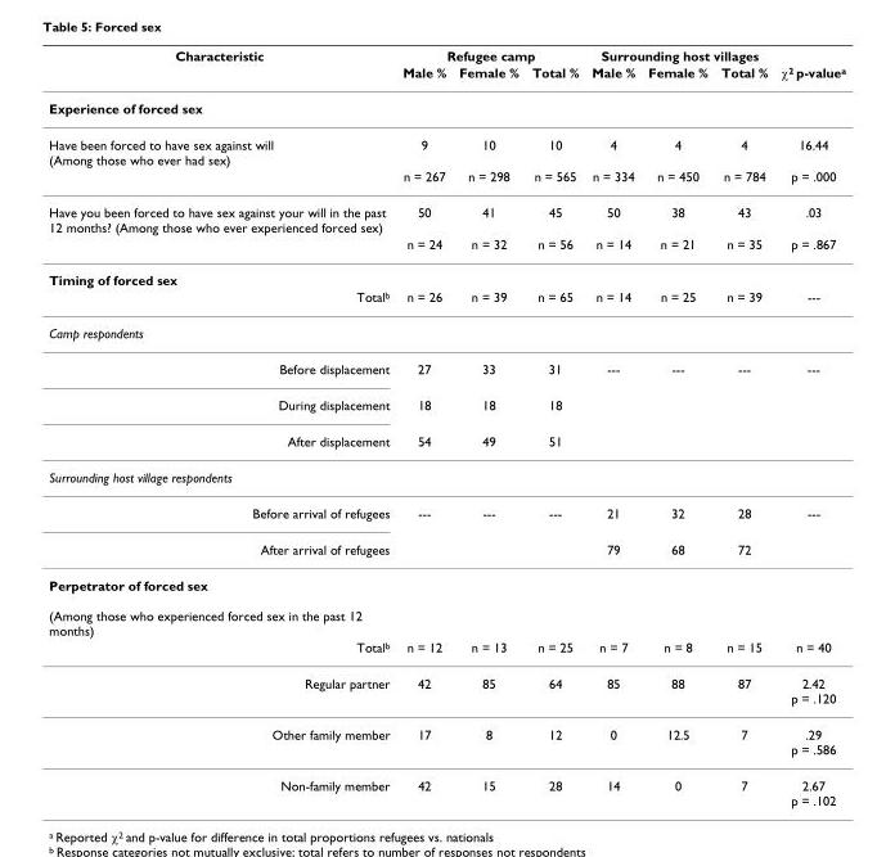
<table><thead><tr><td rowspan="2">Characteristic</td><td colspan="3">Refugee camp</td><td colspan="3">Surrounding host villages</td><td rowspan="2">χ<sup>2</sup> p-value<sup>a</sup></td></tr><tr><td>Male %</td><td>Female %</td><td>Total %</td><td>Male %</td><td>Female %</td><td>Total %</td></tr></thead><tbody><tr><td colspan="8">Experience of forced sex</td></tr><tr><td rowspan="2">Have been forced to have sex against will (Among those who ever had sex)</td><td>9</td><td>10</td><td>10</td><td>4</td><td>4</td><td>4</td><td>16.44</td></tr><tr><td>n = 267</td><td>n = 298</td><td>n = 565</td><td>n = 334</td><td>n = 450</td><td>n = 784</td><td>p = .000</td></tr><tr><td rowspan="2">Have you been forced to have sex against your will in the past 12 months? (Among those who ever experienced forced sex)</td><td>50</td><td>41</td><td>45</td><td>50</td><td>38</td><td>43</td><td>.03</td></tr><tr><td>n = 24</td><td>n = 32</td><td>n = 56</td><td>n = 14</td><td>n = 21</td><td>n = 35</td><td>p = .867</td></tr><tr><td colspan="8">Timing of forced sex</td></tr><tr><td>Total<sup>b</sup></td><td>n = 26</td><td>n = 39</td><td>n = 65</td><td>n = 14</td><td>n = 25</td><td>n = 39</td><td>---</td></tr><tr><td colspan="8">Camp respondents</td></tr><tr><td>Before displacement</td><td>27</td><td>33</td><td>31</td><td>---</td><td>---</td><td>---</td><td>---</td></tr><tr><td>During displacement</td><td>18</td><td>18</td><td>18</td><td></td><td></td><td></td><td></td></tr><tr><td>After displacement</td><td>54</td><td>49</td><td>51</td><td></td><td></td><td></td><td></td></tr><tr><td colspan="8">Surrounding host village respondents</td></tr><tr><td>Before arrival of refugees</td><td>---</td><td>---</td><td>---</td><td>21</td><td>32</td><td>28</td><td>---</td></tr><tr><td>After arrival of refugees</td><td></td><td></td><td></td><td>79</td><td>68</td><td>72</td><td></td></tr><tr><td colspan="8">Perpetrator of forced sex (Among those who experienced forced sex in the past 12 months)</td></tr><tr><td>Total<sup>b</sup></td><td>n = 12</td><td>n = 13</td><td>n = 25</td><td>n = 7</td><td>n = 8</td><td>n = 15</td><td>n = 40</td></tr><tr><td>Regular partner</td><td>42</td><td>85</td><td>64</td><td>85</td><td>88</td><td>87</td><td>2.42 p = .120</td></tr><tr><td>Other family member</td><td>17</td><td>8</td><td>12</td><td>0</td><td>12.5</td><td>7</td><td>.29 p = .586</td></tr><tr><td>Non-family member</td><td>42</td><td>15</td><td>28</td><td>14</td><td>0</td><td>7</td><td>2.67 p = .102</td></tr></tbody></table>